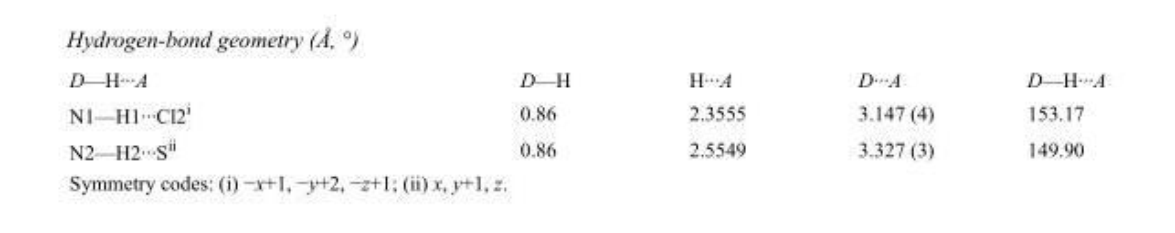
<table><tbody><tr><td>D—H···A</td><td>D—H</td><td>H···A</td><td>D···A</td><td>D—H···A</td></tr><tr><td>N1—H1···Cl2<sup>i</sup></td><td>0.86</td><td>2.3555</td><td>3.147 (4)</td><td>153.17</td></tr><tr><td>N2—H2···S<sup>ii</sup></td><td>0.86</td><td>2.5549</td><td>3.327 (3)</td><td>149.90</td></tr></tbody></table>